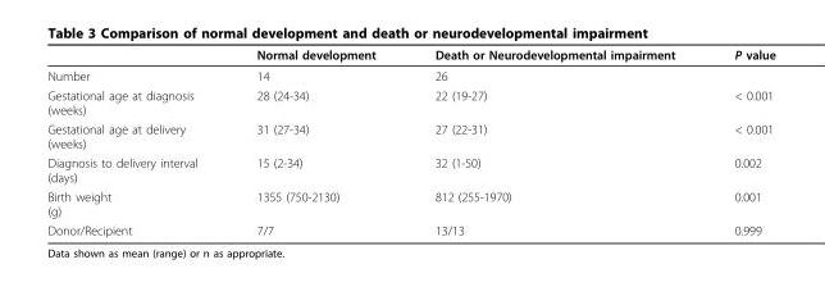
<table><thead><tr><td></td><td>Normal development</td><td>Death or Neurodevelopmental impairment</td><td>P value</td></tr></thead><tbody><tr><td>Number</td><td>14</td><td>26</td><td></td></tr><tr><td>Gestational age at diagnosis (weeks)</td><td>28 (24-34)</td><td>22 (19-27)</td><td>&lt; 0.001</td></tr><tr><td>Gestational age at delivery (weeks)</td><td>31 (27-34)</td><td>27 (22-31)</td><td>&lt; 0.001</td></tr><tr><td>Diagnosis to delivery interval (days)</td><td>15 (2-34)</td><td>32 (1-50)</td><td>0.002</td></tr><tr><td>Birth weight (g)</td><td>1355 (750-2130)</td><td>812 (255-1970)</td><td>0.001</td></tr><tr><td>Donor/Recipient</td><td>7/7</td><td>13/13</td><td>0.999</td></tr></tbody></table>